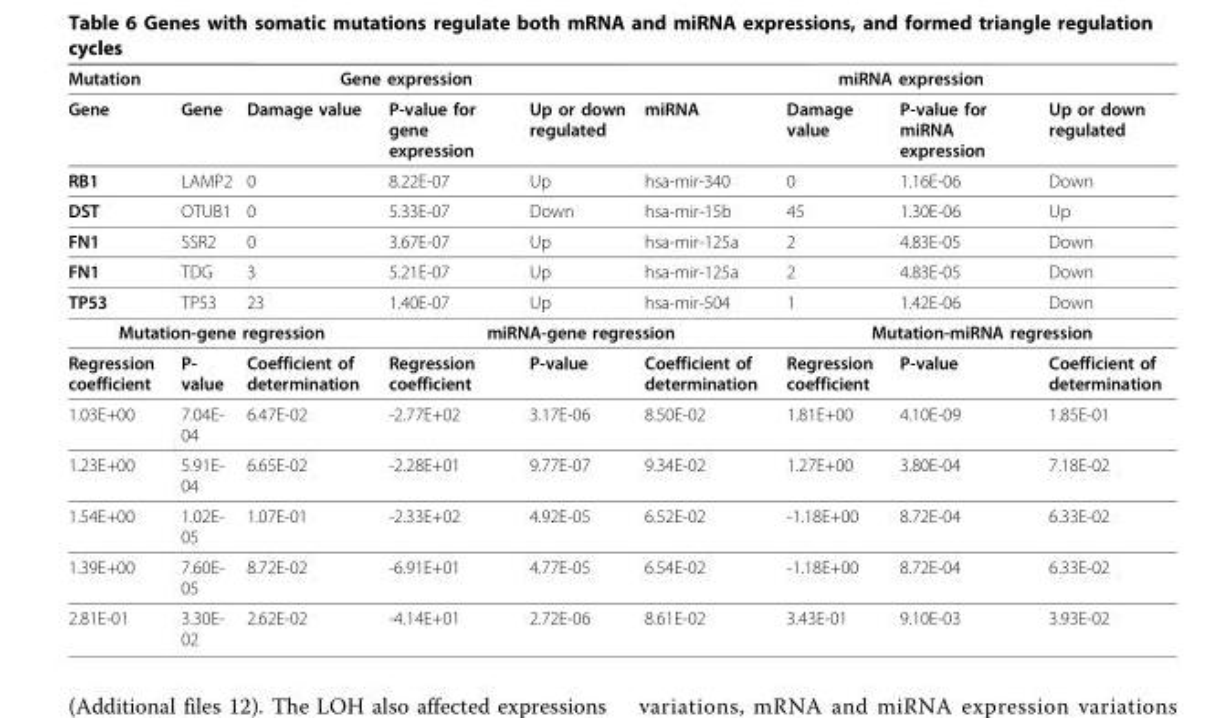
<table><thead><tr><td rowspan="2">Mutation Gene</td><td colspan="4">Gene expression</td><td colspan="4">miRNA expression</td></tr><tr><td>Gene</td><td>Damage value</td><td>P-value for gene expression</td><td>Up or down regulated</td><td>miRNA</td><td>Damage value</td><td>P-value for miRNA expression</td><td>Up or down regulated</td></tr></thead><tbody><tr><td>RB1</td><td>LAMP2</td><td>0</td><td>8.22E-07</td><td>Up</td><td>hsa-mir-340</td><td>0</td><td>1.16E-06</td><td>Down</td></tr><tr><td>DST</td><td>OTUB1</td><td>0</td><td>5.33E-07</td><td>Down</td><td>hsa-mir-15b</td><td>45</td><td>1.30E-06</td><td>Up</td></tr><tr><td>FN1</td><td>SSR2</td><td>0</td><td>3.67E-07</td><td>Up</td><td>hsa-mir-125a</td><td>2</td><td>4.83E-05</td><td>Down</td></tr><tr><td>FN1</td><td>TDG</td><td>3</td><td>5.21E-07</td><td>Up</td><td>hsa-mir-125a</td><td>2</td><td>4.83E-05</td><td>Down</td></tr><tr><td>TP53</td><td>TP53</td><td>23</td><td>1.40E-07</td><td>Up</td><td>hsa-mir-504</td><td>1</td><td>1.42E-06</td><td>Down</td></tr><tr><td colspan="3">Mutation-gene regression</td><td colspan="3">miRNA-gene regression</td><td colspan="3">Mutation-miRNA regression</td></tr><tr><td>Regression coefficient</td><td>P- value</td><td>Coefficient of determination</td><td>Regression coefficient</td><td>P-value</td><td>Coefficient of determination</td><td>Regression coefficient</td><td>P-value</td><td>Coefficient of determination</td></tr><tr><td>1.03E+00</td><td>7.04E- 04</td><td>6.47E-02</td><td>-2.77E+02</td><td>3.17E-06</td><td>8.50E-02</td><td>1.81E+00</td><td>4.10E-09</td><td>1.85E-01</td></tr><tr><td>1.23E+00</td><td>5.91E- 04</td><td>6.65E-02</td><td>-2.28E+01</td><td>9.77E-07</td><td>9.34E-02</td><td>1.27E+00</td><td>3.80E-04</td><td>7.18E-02</td></tr><tr><td>1.54E+00</td><td>1.02E- 05</td><td>1.07E-01</td><td>-2.33E+02</td><td>4.92E-05</td><td>6.52E-02</td><td>-1.18E+00</td><td>8.72E-04</td><td>6.33E-02</td></tr><tr><td>1.39E+00</td><td>7.60E- 05</td><td>8.72E-02</td><td>-6.91E+01</td><td>4.77E-05</td><td>6.54E-02</td><td>-1.18E+00</td><td>8.72E-04</td><td>6.33E-02</td></tr><tr><td>2.81E-01</td><td>3.30E- 02</td><td>2.62E-02</td><td>-4.14E+01</td><td>2.72E-06</td><td>8.61E-02</td><td>3.43E-01</td><td>9.10E-03</td><td>3.93E-02</td></tr></tbody></table>